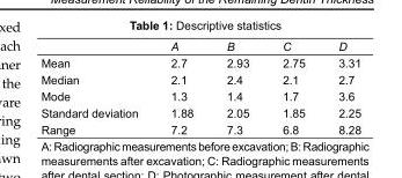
<table><thead><tr><td></td><td>A</td><td>B</td><td>C</td><td>D</td></tr></thead><tbody><tr><td>Mean</td><td>2.7</td><td>2.93</td><td>2.75</td><td>3.31</td></tr><tr><td>Median</td><td>2.1</td><td>2.4</td><td>2.1</td><td>2.7</td></tr><tr><td>Mode</td><td>1.3</td><td>1.4</td><td>1.7</td><td>3.6</td></tr><tr><td>Standard deviation</td><td>1.88</td><td>2.05</td><td>1.85</td><td>2.25</td></tr><tr><td>Range</td><td>7.2</td><td>7.3</td><td>6.8</td><td>8.28</td></tr></tbody></table>